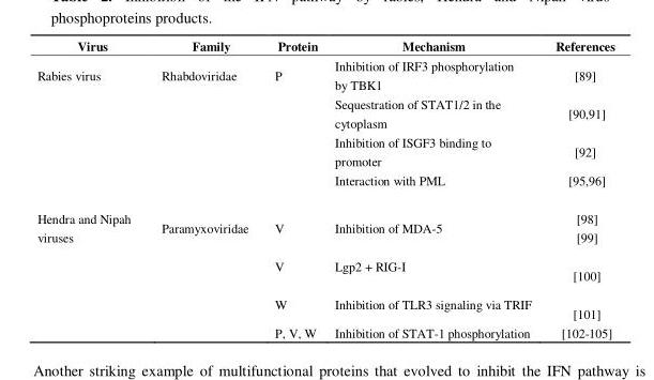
<table><thead><tr><td>Virus</td><td>Family</td><td>Protein</td><td>Mechanism</td><td>References</td></tr></thead><tbody><tr><td rowspan="5">Rabies virus</td><td rowspan="2">Rhabdoviridae</td><td rowspan="2">P</td><td>Inhibition of IRF3 phosphorylation</td><td rowspan="2">[89]</td></tr><tr><td>by TBK1</td></tr><tr><td></td><td></td><td>Sequestration of STAT1/2 in the cytoplasm</td><td>[90,91]</td></tr><tr><td></td><td></td><td>Inhibition of ISGF3 binding to promoter</td><td>[92]</td></tr><tr><td></td><td></td><td>Interaction with PML</td><td>[95,96]</td></tr><tr><td rowspan="5">Hendra and Nipah viruses</td><td rowspan="2">Paramyxoviridae</td><td rowspan="2">V</td><td rowspan="2">Inhibition of MDA-5</td><td>[98]</td></tr><tr><td>[99]</td></tr><tr><td></td><td>V</td><td>Lgp2 + RIG-I</td><td>[100]</td></tr><tr><td></td><td>W</td><td>Inhibition of TLR3 signaling via TRIF</td><td>[101]</td></tr><tr><td></td><td>P, V, W</td><td>Inhibition of STAT-1 phosphorylation</td><td>[102-105]</td></tr></tbody></table>